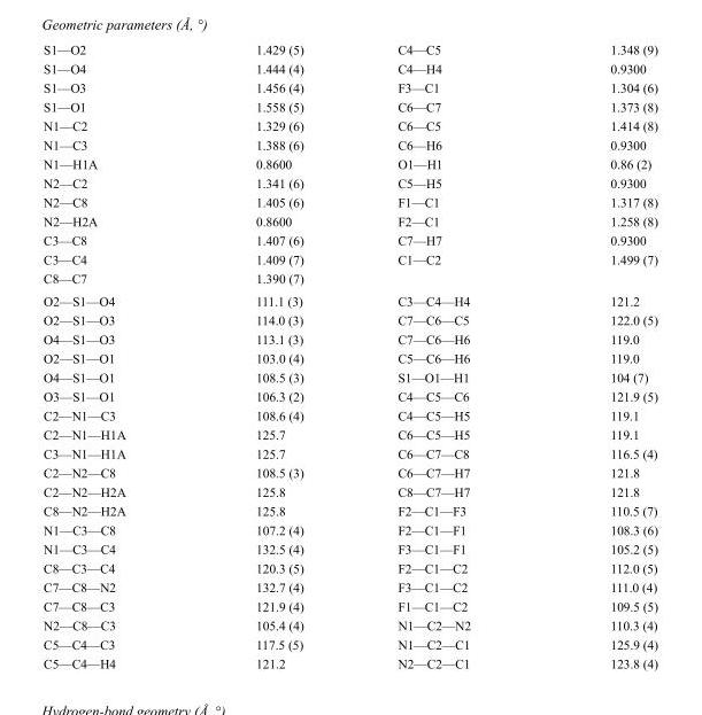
<table><tbody><tr><td>S1—O2</td><td>1.429 (5)</td><td>C4—C5</td><td>1.348 (9)</td></tr><tr><td>S1—O4</td><td>1.444 (4)</td><td>C4—H4</td><td>0.9300</td></tr><tr><td>S1—O3</td><td>1.456 (4)</td><td>F3—C1</td><td>1.304 (6)</td></tr><tr><td>S1—O1</td><td>1.558 (5)</td><td>C6—C7</td><td>1.373 (8)</td></tr><tr><td>N1—C2</td><td>1.329 (6)</td><td>C6—C5</td><td>1.414 (8)</td></tr><tr><td>N1—C3</td><td>1.388 (6)</td><td>C6—H6</td><td>0.9300</td></tr><tr><td>N1—H1A</td><td>0.8600</td><td>O1—H1</td><td>0.86 (2)</td></tr><tr><td>N2—C2</td><td>1.341 (6)</td><td>C5—H5</td><td>0.9300</td></tr><tr><td>N2—C8</td><td>1.405 (6)</td><td>F1—C1</td><td>1.317 (8)</td></tr><tr><td>N2—H2A</td><td>0.8600</td><td>F2—C1</td><td>1.258 (8)</td></tr><tr><td>C3—C8</td><td>1.407 (6)</td><td>C7—H7</td><td>0.9300</td></tr><tr><td>C3—C4</td><td>1.409 (7)</td><td>C1—C2</td><td>1.499 (7)</td></tr><tr><td>C8—C7</td><td>1.390 (7)</td><td></td><td></td></tr><tr><td>O2—S1—O4</td><td>111.1 (3)</td><td>C3—C4—H4</td><td>121.2</td></tr><tr><td>O2—S1—O3</td><td>114.0 (3)</td><td>C7—C6—C5</td><td>122.0 (5)</td></tr><tr><td>O4—S1—O3</td><td>113.1 (3)</td><td>C7—C6—H6</td><td>119.0</td></tr><tr><td>O2—S1—O1</td><td>103.0 (4)</td><td>C5—C6—H6</td><td>119.0</td></tr><tr><td>O4—S1—O1</td><td>108.5 (3)</td><td>S1—O1—H1</td><td>104 (7)</td></tr><tr><td>O3—S1—O1</td><td>106.3 (2)</td><td>C4—C5—C6</td><td>121.9 (5)</td></tr><tr><td>C2—N1—C3</td><td>108.6 (4)</td><td>C4—C5—H5</td><td>119.1</td></tr><tr><td>C2—N1—H1A</td><td>125.7</td><td>C6—C5—H5</td><td>119.1</td></tr><tr><td>C3—N1—H1A</td><td>125.7</td><td>C6—C7—C8</td><td>116.5 (4)</td></tr><tr><td>C2—N2—C8</td><td>108.5 (3)</td><td>C6—C7—H7</td><td>121.8</td></tr><tr><td>C2—N2—H2A</td><td>125.8</td><td>C8—C7—H7</td><td>121.8</td></tr><tr><td>C8—N2—H2A</td><td>125.8</td><td>F2—C1—F3</td><td>110.5 (7)</td></tr><tr><td>N1—C3—C8</td><td>107.2 (4)</td><td>F2—C1—F1</td><td>108.3 (6)</td></tr><tr><td>N1—C3—C4</td><td>132.5 (4)</td><td>F3—C1—F1</td><td>105.2 (5)</td></tr><tr><td>C8—C3—C4</td><td>120.3 (5)</td><td>F2—C1—C2</td><td>112.0 (5)</td></tr><tr><td>C7—C8—N2</td><td>132.7 (4)</td><td>F3—C1—C2</td><td>111.0 (4)</td></tr><tr><td>C7—C8—C3</td><td>121.9 (4)</td><td>F1—C1—C2</td><td>109.5 (5)</td></tr><tr><td>N2—C8—C3</td><td>105.4 (4)</td><td>N1—C2—N2</td><td>110.3 (4)</td></tr><tr><td>C5—C4—C3</td><td>117.5 (5)</td><td>N1—C2—C1</td><td>125.9 (4)</td></tr><tr><td>C5—C4—H4</td><td>121.2</td><td>N2—C2—C1</td><td>123.8 (4)</td></tr></tbody></table>